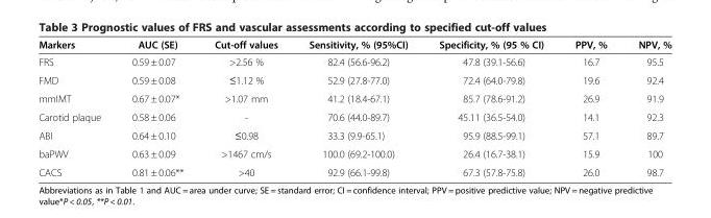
<table><thead><tr><td>Markers</td><td>AUC (SE)</td><td>Cut-off values</td><td>Sensitivity, % (95%CI)</td><td>Specificity, % (95 % CI)</td><td>PPV, %</td><td>NPV, %</td></tr></thead><tbody><tr><td>FRS</td><td>0.59 ± 0.07</td><td>&gt;2.56 %</td><td>82.4 (56.6-96.2)</td><td>47.8 (39.1-56.6)</td><td>16.7</td><td>95.5</td></tr><tr><td>FMD</td><td>0.59 ± 0.08</td><td>≤1.12 %</td><td>52.9 (27.8-77.0)</td><td>72.4 (64.0-79.8)</td><td>19.6</td><td>92.4</td></tr><tr><td>mmIMT</td><td>0.67 ± 0.07*</td><td>&gt;1.07 mm</td><td>41.2 (18.4-67.1)</td><td>85.7 (78.6-91.2)</td><td>26.9</td><td>91.9</td></tr><tr><td>Carotid plaque</td><td>0.58 ± 0.06</td><td>-</td><td>70.6 (44.0-89.7)</td><td>45.11 (36.5-54.0)</td><td>14.1</td><td>92.3</td></tr><tr><td>ABI</td><td>0.64 ± 0.10</td><td>≤0.98</td><td>33.3 (9.9-65.1)</td><td>95.9 (88.5-99.1)</td><td>57.1</td><td>89.7</td></tr><tr><td>baPWV</td><td>0.63 ± 0.09</td><td>&gt;1467 cm/s</td><td>100.0 (69.2-100.0)</td><td>26.4 (16.7-38.1)</td><td>15.9</td><td>100</td></tr><tr><td>CACS</td><td>0.81 ± 0.06**</td><td>&gt;40</td><td>92.9 (66.1-99.8)</td><td>67.3 (57.8-75.8)</td><td>26.0</td><td>98.7</td></tr></tbody></table>